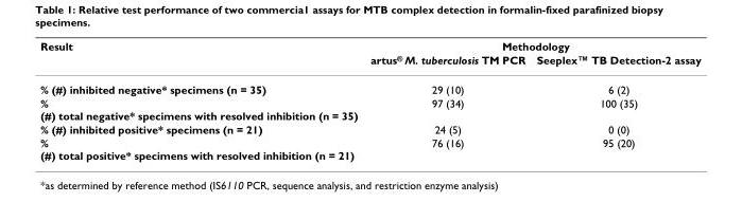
<table><thead><tr><td rowspan="2">Result</td><td colspan="2">Methodology</td></tr><tr><td>artus<sup>®</sup> M. tuberculosis TM PCR</td><td>Seeplex™ TB Detection-2 assay</td></tr></thead><tbody><tr><td>% (#) inhibited negative* specimens (n = 35)</td><td>29 (10)</td><td>6 (2)</td></tr><tr><td>% (#) total negative* specimens with resolved inhibition (n = 35)</td><td>97 (34)</td><td>100 (35)</td></tr><tr><td>% (#) inhibited positive* specimens (n = 21)</td><td>24 (5)</td><td>0 (0)</td></tr><tr><td>% (#) total positive* specimens with resolved inhibition (n = 21)</td><td>76 (16)</td><td>95 (20)</td></tr></tbody></table>